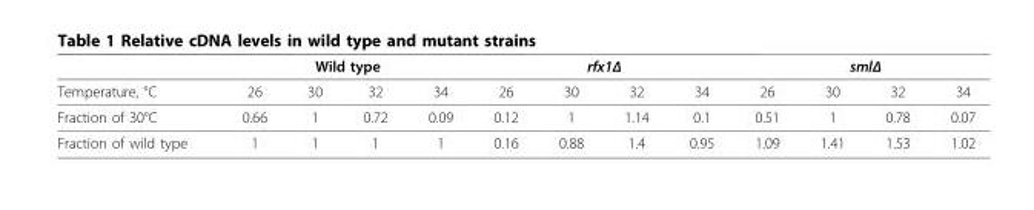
<table><thead><tr><td rowspan="2">Temperature, °C</td><td colspan="4">Wild type</td><td colspan="4">rfx1Δ</td><td colspan="4">smlΔ</td></tr><tr><td>26</td><td>30</td><td>32</td><td>34</td><td>26</td><td>30</td><td>32</td><td>34</td><td>26</td><td>30</td><td>32</td><td>34</td></tr></thead><tbody><tr><td>Fraction of 30°C</td><td>0.66</td><td>1</td><td>0.72</td><td>0.09</td><td>0.12</td><td>1</td><td>1.14</td><td>0.1</td><td>0.51</td><td>1</td><td>0.78</td><td>0.07</td></tr><tr><td>Fraction of wild type</td><td>1</td><td>1</td><td>1</td><td>1</td><td>0.16</td><td>0.88</td><td>1.4</td><td>0.95</td><td>1.09</td><td>1.41</td><td>1.53</td><td>1.02</td></tr></tbody></table>